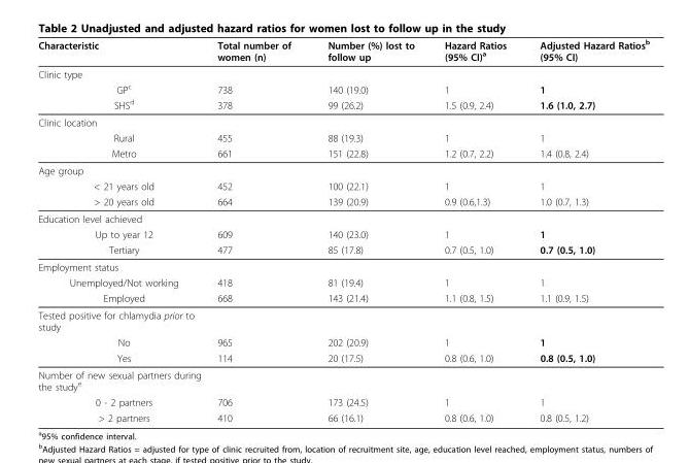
<table><thead><tr><td>Characteristic</td><td>Total number of women (n)</td><td>Number (%) lost to follow up</td><td>Hazard Ratios (95% CI)<sup>a</sup></td><td>Adjusted Hazard Ratios<sup>b</sup> (95% CI)</td></tr></thead><tbody><tr><td colspan="5">Clinic type</td></tr><tr><td>GP<sup>c</sup></td><td>738</td><td>140 (19.0)</td><td>1</td><td>1</td></tr><tr><td>SHS<sup>d</sup></td><td>378</td><td>99 (26.2)</td><td>1.5 (0.9, 2.4)</td><td>1.6 (1.0, 2.7)</td></tr><tr><td colspan="5">Clinic location</td></tr><tr><td>Rural</td><td>455</td><td>88 (19.3)</td><td>1</td><td>1</td></tr><tr><td>Metro</td><td>661</td><td>151 (22.8)</td><td>1.2 (0.7, 2.2)</td><td>1.4 (0.8, 2.4)</td></tr><tr><td colspan="5">Age group</td></tr><tr><td>&lt; 21 years old</td><td>452</td><td>100 (22.1)</td><td>1</td><td>1</td></tr><tr><td>&gt; 20 years old</td><td>664</td><td>139 (20.9)</td><td>0.9 (0.6,1.3)</td><td>1.0 (0.7, 1.3)</td></tr><tr><td colspan="5">Education level achieved</td></tr><tr><td>Up to year 12</td><td>609</td><td>140 (23.0)</td><td>1</td><td>1</td></tr><tr><td>Tertiary</td><td>477</td><td>85 (17.8)</td><td>0.7 (0.5, 1.0)</td><td>0.7 (0.5, 1.0)</td></tr><tr><td colspan="5">Employment status</td></tr><tr><td>Unemployed/Not working</td><td>418</td><td>81 (19.4)</td><td>1</td><td>1</td></tr><tr><td>Employed</td><td>668</td><td>143 (21.4)</td><td>1.1 (0.8, 1.5)</td><td>1.1 (0.9, 1.5)</td></tr><tr><td colspan="5">Tested positive for chlamydia prior to study</td></tr><tr><td>No</td><td>965</td><td>202 (20.9)</td><td>1</td><td>1</td></tr><tr><td>Yes</td><td>114</td><td>20 (17.5)</td><td>0.8 (0.6, 1.0)</td><td>0.8 (0.5, 1.0)</td></tr><tr><td colspan="5">Number of new sexual partners during the study<sup>e</sup></td></tr><tr><td>0 - 2 partners</td><td>706</td><td>173 (24.5)</td><td>1</td><td>1</td></tr><tr><td>&gt; 2 partners</td><td>410</td><td>66 (16.1)</td><td>0.8 (0.6, 1.0)</td><td>0.8 (0.5, 1.2)</td></tr></tbody></table>